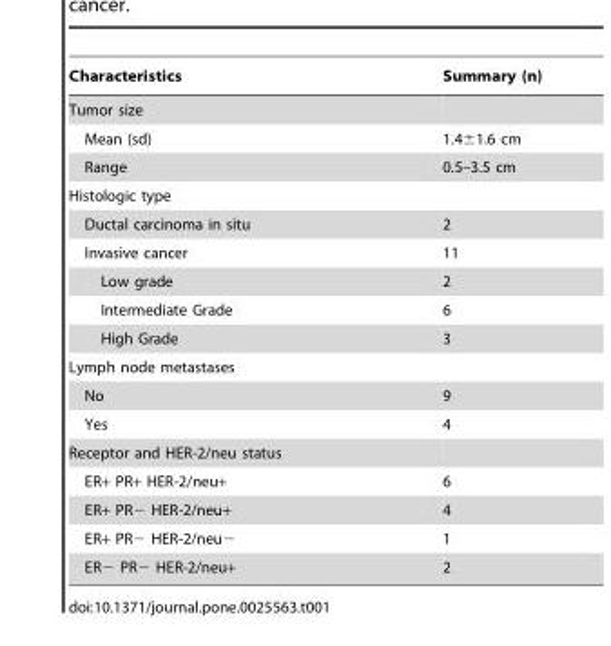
<table><thead><tr><td>Characteristics</td><td>Summary (n)</td></tr></thead><tbody><tr><td colspan="2">Tumor size</td></tr><tr><td>Mean (sd)</td><td>1.4±1.6 cm</td></tr><tr><td>Range</td><td>0.5–3.5 cm</td></tr><tr><td colspan="2">Histologic type</td></tr><tr><td>Ductal carcinoma in situ</td><td>2</td></tr><tr><td>Invasive cancer</td><td>11</td></tr><tr><td>Low grade</td><td>2</td></tr><tr><td>Intermediate Grade</td><td>6</td></tr><tr><td>High Grade</td><td>3</td></tr><tr><td colspan="2">Lymph node metastases</td></tr><tr><td>No</td><td>9</td></tr><tr><td>Yes</td><td>4</td></tr><tr><td colspan="2">Receptor and HER-2/neu status</td></tr><tr><td>ER+ PR+ HER-2/neu+</td><td>6</td></tr><tr><td>ER+ PR− HER-2/neu+</td><td>4</td></tr><tr><td>ER+ PR− HER-2/neu−</td><td>1</td></tr><tr><td>ER− PR− HER-2/neu+</td><td>2</td></tr></tbody></table>